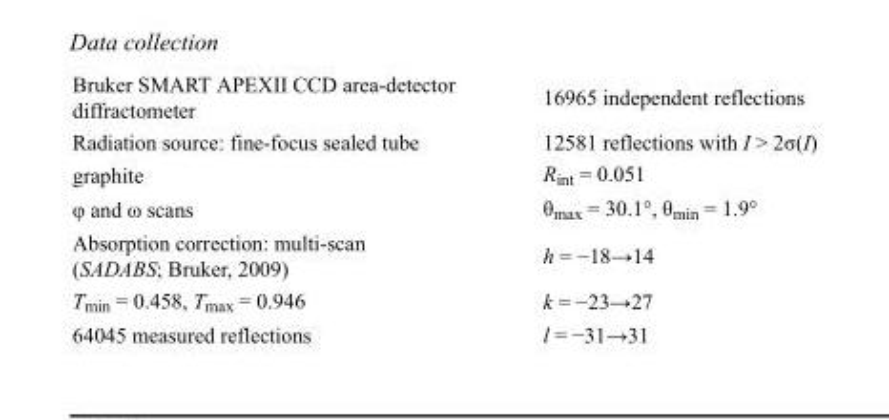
<table><tbody><tr><td>Bruker SMART APEXII CCD area-detector diffractometer</td><td>16965 independent reflections</td></tr><tr><td>Radiation source: fine-focus sealed tube</td><td>12581 reflections with I &gt; 2σ(I)</td></tr><tr><td>graphite</td><td>R<sub>int</sub> = 0.051</td></tr><tr><td>φ and ω scans</td><td>θ<sub>max</sub> = 30.1°, θ<sub>min</sub> = 1.9°</td></tr><tr><td>Absorption correction: multi-scan (SADABS; Bruker, 2009)</td><td>h = −18→14</td></tr><tr><td>T<sub>min</sub> = 0.458, T<sub>max</sub> = 0.946</td><td>k = −23→27</td></tr><tr><td>64045 measured reflections</td><td>l = −31→31</td></tr></tbody></table>